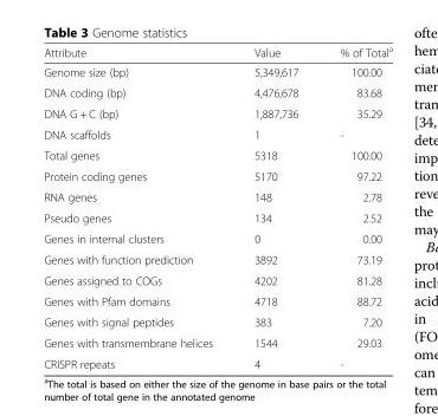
<table><thead><tr><td>Attribute</td><td>Value</td><td>% of Total<sup>a</sup></td></tr></thead><tbody><tr><td>Genome size (bp)</td><td>5,349,617</td><td>100.00</td></tr><tr><td>DNA coding (bp)</td><td>4,476,678</td><td>83.68</td></tr><tr><td>DNA G + C (bp)</td><td>1,887,736</td><td>35.29</td></tr><tr><td>DNA scaffolds</td><td>1</td><td>-</td></tr><tr><td>Total genes</td><td>5318</td><td>100.00</td></tr><tr><td>Protein coding genes</td><td>5170</td><td>97.22</td></tr><tr><td>RNA genes</td><td>148</td><td>2.78</td></tr><tr><td>Pseudo genes</td><td>134</td><td>2.52</td></tr><tr><td>Genes in internal clusters</td><td>0</td><td>0.00</td></tr><tr><td>Genes with function prediction</td><td>3892</td><td>73.19</td></tr><tr><td>Genes assigned to COGs</td><td>4202</td><td>81.28</td></tr><tr><td>Genes with Pfam domains</td><td>4718</td><td>88.72</td></tr><tr><td>Genes with signal peptides</td><td>383</td><td>7.20</td></tr><tr><td>Genes with transmembrane helices</td><td>1544</td><td>29.03</td></tr><tr><td>CRISPR repeats</td><td>4</td><td>-</td></tr></tbody></table>